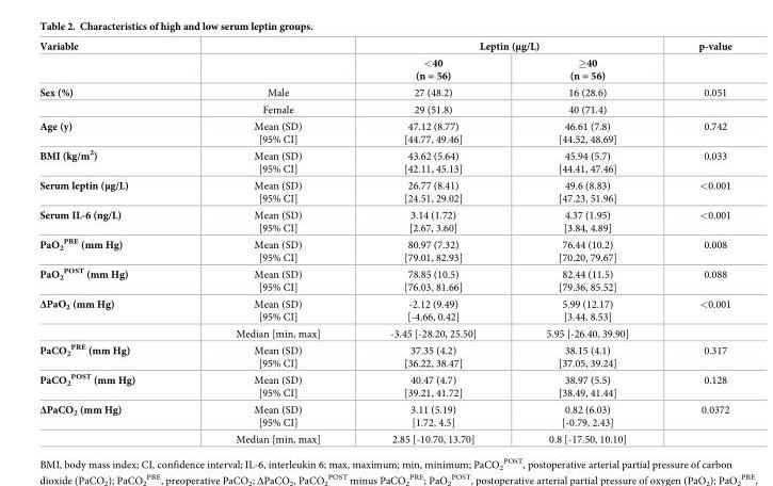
<table><thead><tr><td rowspan="2">Variable</td><td rowspan="2"></td><td colspan="2">Leptin (μg/L)</td><td rowspan="2">p-value</td></tr><tr><td>&lt;40 (n = 56)</td><td>≥40 (n = 56)</td></tr></thead><tbody><tr><td rowspan="2">Sex (%)</td><td>Male</td><td>27 (48.2)</td><td>16 (28.6)</td><td>0.051</td></tr><tr><td>Female</td><td>29 (51.8)</td><td>40 (71.4)</td><td></td></tr><tr><td>Age (y)</td><td>Mean (SD) [95% CI]</td><td>47.12 (8.77) [44.77, 49.46]</td><td>46.61 (7.8) [44.52, 48.69]</td><td>0.742</td></tr><tr><td>BMI (kg/m<sup>2</sup>)</td><td>Mean (SD) [95% CI]</td><td>43.62 (5.64) [42.11, 45.13]</td><td>45.94 (5.7) [44.41, 47.46]</td><td>0.033</td></tr><tr><td>Serum leptin (μg/L)</td><td>Mean (SD) [95% CI]</td><td>26.77 (8.41) [24.51, 29.02]</td><td>49.6 (8.83) [47.23, 51.96]</td><td>&lt;0.001</td></tr><tr><td>Serum IL-6 (ng/L)</td><td>Mean (SD) [95% CI]</td><td>3.14 (1.72) [2.67, 3.60]</td><td>4.37 (1.95) [3.84, 4.89]</td><td>&lt;0.001</td></tr><tr><td>PaO<sub>2</sub> <sup>PRE</sup> (mm Hg)</td><td>Mean (SD) [95% CI]</td><td>80.97 (7.32) [79.01, 82.93]</td><td>76.44 (10.2) [70.20, 79.67]</td><td>0.008</td></tr><tr><td>PaO<sub>2</sub> <sup>POST</sup> (mm Hg)</td><td>Mean (SD) [95% CI]</td><td>78.85 (10.5) [76.03, 81.66]</td><td>82.44 (11.5) [79.36, 85.52]</td><td>0.088</td></tr><tr><td rowspan="2">ΔPaO<sub>2</sub> (mm Hg)</td><td>Mean (SD) [95% CI]</td><td>-2.12 (9.49) [-4.66, 0.42]</td><td>5.99 (12.17) [3.44, 8.53]</td><td>&lt;0.001</td></tr><tr><td>Median [min, max]</td><td>-3.45 [-28.20, 25.50]</td><td>5.95 [-26.40, 39.90]</td><td></td></tr><tr><td>PaCO<sub>2</sub> <sup>PRE</sup> (mm Hg)</td><td>Mean (SD) [95% CI]</td><td>37.35 (4.2) [36.22, 38.47]</td><td>38.15 (4.1) [37.05, 39.24]</td><td>0.317</td></tr><tr><td>PaCO<sub>2</sub> <sup>POST</sup> (mm Hg)</td><td>Mean (SD) [95% CI]</td><td>40.47 (4.7) [39.21, 41.72]</td><td>38.97 (5.5) [38.49, 41.44]</td><td>0.128</td></tr><tr><td rowspan="2">ΔPaCO<sub>2</sub> (mm Hg)</td><td>Mean (SD) [95% CI]</td><td>3.11 (5.19) [1.72, 4.5]</td><td>0.82 (6.03) [-0.79, 2.43]</td><td>0.0372</td></tr><tr><td>Median [min, max]</td><td>2.85 [-10.70, 13.70]</td><td>0.8 [-17.50, 10.10]</td><td></td></tr></tbody></table>